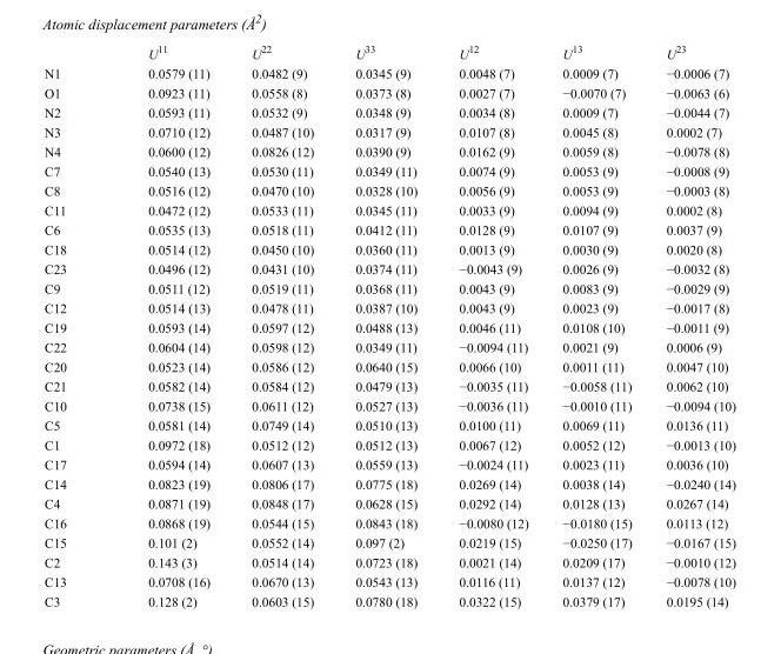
<table><thead><tr><td></td><td>U<sup>11</sup></td><td>U<sup>22</sup></td><td>U<sup>33</sup></td><td>U<sup>12</sup></td><td>U<sup>13</sup></td><td>U<sup>23</sup></td></tr></thead><tbody><tr><td>N1</td><td>0.0579 (11)</td><td>0.0482 (9)</td><td>0.0345 (9)</td><td>0.0048 (7)</td><td>0.0009 (7)</td><td>−0.0006 (7)</td></tr><tr><td>O1</td><td>0.0923 (11)</td><td>0.0558 (8)</td><td>0.0373 (8)</td><td>0.0027 (7)</td><td>−0.0070 (7)</td><td>−0.0063 (6)</td></tr><tr><td>N2</td><td>0.0593 (11)</td><td>0.0532 (9)</td><td>0.0348 (9)</td><td>0.0034 (8)</td><td>0.0009 (7)</td><td>−0.0044 (7)</td></tr><tr><td>N3</td><td>0.0710 (12)</td><td>0.0487 (10)</td><td>0.0317 (9)</td><td>0.0107 (8)</td><td>0.0045 (8)</td><td>0.0002 (7)</td></tr><tr><td>N4</td><td>0.0600 (12)</td><td>0.0826 (12)</td><td>0.0390 (9)</td><td>0.0162 (9)</td><td>0.0059 (8)</td><td>−0.0078 (8)</td></tr><tr><td>C7</td><td>0.0540 (13)</td><td>0.0530 (11)</td><td>0.0349 (11)</td><td>0.0074 (9)</td><td>0.0053 (9)</td><td>−0.0008 (9)</td></tr><tr><td>C8</td><td>0.0516 (12)</td><td>0.0470 (10)</td><td>0.0328 (10)</td><td>0.0056 (9)</td><td>0.0053 (9)</td><td>−0.0003 (8)</td></tr><tr><td>C11</td><td>0.0472 (12)</td><td>0.0533 (11)</td><td>0.0345 (11)</td><td>0.0033 (9)</td><td>0.0094 (9)</td><td>0.0002 (8)</td></tr><tr><td>C6</td><td>0.0535 (13)</td><td>0.0518 (11)</td><td>0.0412 (11)</td><td>0.0128 (9)</td><td>0.0107 (9)</td><td>0.0037 (9)</td></tr><tr><td>C18</td><td>0.0514 (12)</td><td>0.0450 (10)</td><td>0.0360 (11)</td><td>0.0013 (9)</td><td>0.0030 (9)</td><td>0.0020 (8)</td></tr><tr><td>C23</td><td>0.0496 (12)</td><td>0.0431 (10)</td><td>0.0374 (11)</td><td>−0.0043 (9)</td><td>0.0026 (9)</td><td>−0.0032 (8)</td></tr><tr><td>C9</td><td>0.0511 (12)</td><td>0.0519 (11)</td><td>0.0368 (11)</td><td>0.0043 (9)</td><td>0.0083 (9)</td><td>−0.0029 (9)</td></tr><tr><td>C12</td><td>0.0514 (13)</td><td>0.0478 (11)</td><td>0.0387 (10)</td><td>0.0043 (9)</td><td>0.0023 (9)</td><td>−0.0017 (8)</td></tr><tr><td>C19</td><td>0.0593 (14)</td><td>0.0597 (12)</td><td>0.0488 (13)</td><td>0.0046 (11)</td><td>0.0108 (10)</td><td>−0.0011 (9)</td></tr><tr><td>C22</td><td>0.0604 (14)</td><td>0.0598 (12)</td><td>0.0349 (11)</td><td>−0.0094 (11)</td><td>0.0021 (9)</td><td>0.0006 (9)</td></tr><tr><td>C20</td><td>0.0523 (14)</td><td>0.0586 (12)</td><td>0.0640 (15)</td><td>0.0066 (10)</td><td>0.0011 (11)</td><td>0.0047 (10)</td></tr><tr><td>C21</td><td>0.0582 (14)</td><td>0.0584 (12)</td><td>0.0479 (13)</td><td>−0.0035 (11)</td><td>−0.0058 (11)</td><td>0.0062 (10)</td></tr><tr><td>C10</td><td>0.0738 (15)</td><td>0.0611 (12)</td><td>0.0527 (13)</td><td>−0.0036 (11)</td><td>−0.0010 (11)</td><td>−0.0094 (10)</td></tr><tr><td>C5</td><td>0.0581 (14)</td><td>0.0749 (14)</td><td>0.0510 (13)</td><td>0.0100 (11)</td><td>0.0069 (11)</td><td>0.0136 (11)</td></tr><tr><td>C1</td><td>0.0972 (18)</td><td>0.0512 (12)</td><td>0.0512 (13)</td><td>0.0067 (12)</td><td>0.0052 (12)</td><td>−0.0013 (10)</td></tr><tr><td>C17</td><td>0.0594 (14)</td><td>0.0607 (13)</td><td>0.0559 (13)</td><td>−0.0024 (11)</td><td>0.0023 (11)</td><td>0.0036 (10)</td></tr><tr><td>C14</td><td>0.0823 (19)</td><td>0.0806 (17)</td><td>0.0775 (18)</td><td>0.0269 (14)</td><td>0.0038 (14)</td><td>−0.0240 (14)</td></tr><tr><td>C4</td><td>0.0871 (19)</td><td>0.0848 (17)</td><td>0.0628 (15)</td><td>0.0292 (14)</td><td>0.0128 (13)</td><td>0.0267 (14)</td></tr><tr><td>C16</td><td>0.0868 (19)</td><td>0.0544 (15)</td><td>0.0843 (18)</td><td>−0.0080 (12)</td><td>−0.0180 (15)</td><td>0.0113 (12)</td></tr><tr><td>C15</td><td>0.101 (2)</td><td>0.0552 (14)</td><td>0.097 (2)</td><td>0.0219 (15)</td><td>−0.0250 (17)</td><td>−0.0167 (15)</td></tr><tr><td>C2</td><td>0.143 (3)</td><td>0.0514 (14)</td><td>0.0723 (18)</td><td>0.0021 (14)</td><td>0.0209 (17)</td><td>−0.0010 (12)</td></tr><tr><td>C13</td><td>0.0708 (16)</td><td>0.0670 (13)</td><td>0.0543 (13)</td><td>0.0116 (11)</td><td>0.0137 (12)</td><td>−0.0078 (10)</td></tr><tr><td>C3</td><td>0.128 (2)</td><td>0.0603 (15)</td><td>0.0780 (18)</td><td>0.0322 (15)</td><td>0.0379 (17)</td><td>0.0195 (14)</td></tr></tbody></table>